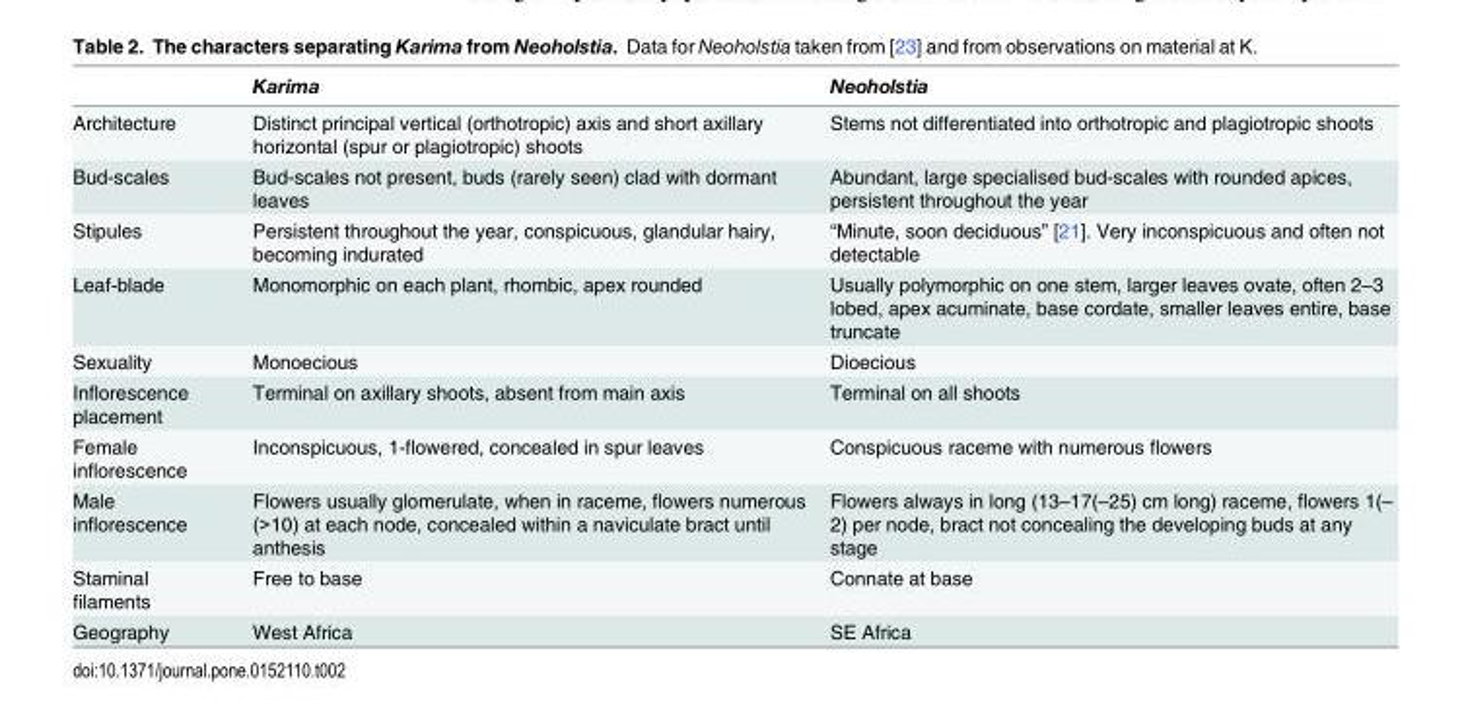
<table><thead><tr><td></td><td>Karima</td><td>Neoholstia</td></tr></thead><tbody><tr><td>Architecture</td><td>Distinct principal vertical (orthotropic) axis and short axillary horizontal (spur or plagiotropic) shoots</td><td>Stems not differentiated into orthotropic and plagiotropic shoots</td></tr><tr><td>Bud-scales</td><td>Bud-scales not present, buds (rarely seen) clad with dormant leaves</td><td>Abundant, large specialised bud-scales with rounded apices, persistent throughout the year</td></tr><tr><td>Stipules</td><td>Persistent throughout the year, conspicuous, glandular hairy, becoming indurated</td><td>“Minute, soon deciduous” [21]. Very inconspicuous and often not detectable</td></tr><tr><td>Leaf-blade</td><td>Monomorphic on each plant, rhombic, apex rounded</td><td>Usually polymorphic on one stem, larger leaves ovate, often 2–3 lobed, apex acuminate, base cordate, smaller leaves entire, base truncate</td></tr><tr><td>Sexuality</td><td>Monoecious</td><td>Dioecious</td></tr><tr><td>Inflorescence placement</td><td>Terminal on axillary shoots, absent from main axis</td><td>Terminal on all shoots</td></tr><tr><td>Female inflorescence</td><td>Inconspicuous, 1-flowered, concealed in spur leaves</td><td>Conspicuous raceme with numerous flowers</td></tr><tr><td>Male inflorescence</td><td>Flowers usually glomerulate, when in raceme, flowers numerous (&gt;10) at each node, concealed within a naviculate bract until anthesis</td><td>Flowers always in long (13–17(–25) cm long) raceme, flowers 1(– 2) per node, bract not concealing the developing buds at any stage</td></tr><tr><td>Staminal filaments</td><td>Free to base</td><td>Connate at base</td></tr><tr><td>Geography</td><td>West Africa</td><td>SE Africa</td></tr></tbody></table>